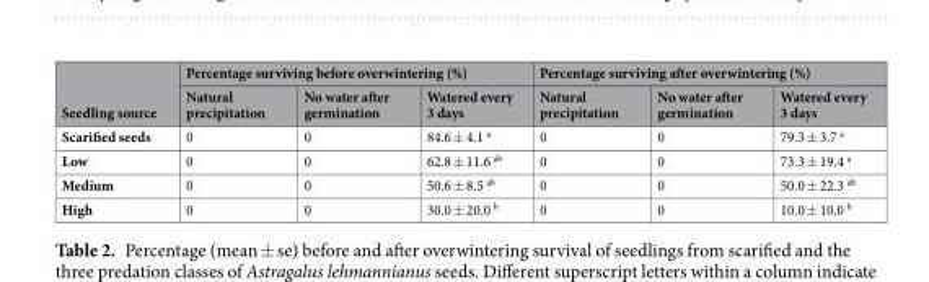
<table><thead><tr><td rowspan="2">Seedling source</td><td colspan="3">Percentage surviving before overwintering (%)</td><td colspan="3">Percentage surviving after overwintering (%)</td></tr><tr><td>Natural precipitation</td><td>No water after germination</td><td>Watered every 3 days</td><td>Natural precipitation</td><td>No water after germination</td><td>Watered every 3 days</td></tr></thead><tbody><tr><td>Scarified seeds</td><td>0</td><td>0</td><td>84.6 ± 4.1 <sup>a</sup></td><td>0</td><td>0</td><td>79.3 ± 3.7 <sup>a</sup></td></tr><tr><td>Low</td><td>0</td><td>0</td><td>62.8 ± 11.6 <sup>ab</sup></td><td>0</td><td>0</td><td>73.3 ± 19.4 <sup>a</sup></td></tr><tr><td>Medium</td><td>0</td><td>0</td><td>50.6 ± 8.5 <sup>ab</sup></td><td>0</td><td>0</td><td>50.0 ± 22.3 <sup>ab</sup></td></tr><tr><td>High</td><td>0</td><td>0</td><td>30.0 ± 20.0 <sup>b</sup></td><td>0</td><td>0</td><td>10.0 ± 10.0 <sup>b</sup></td></tr></tbody></table>